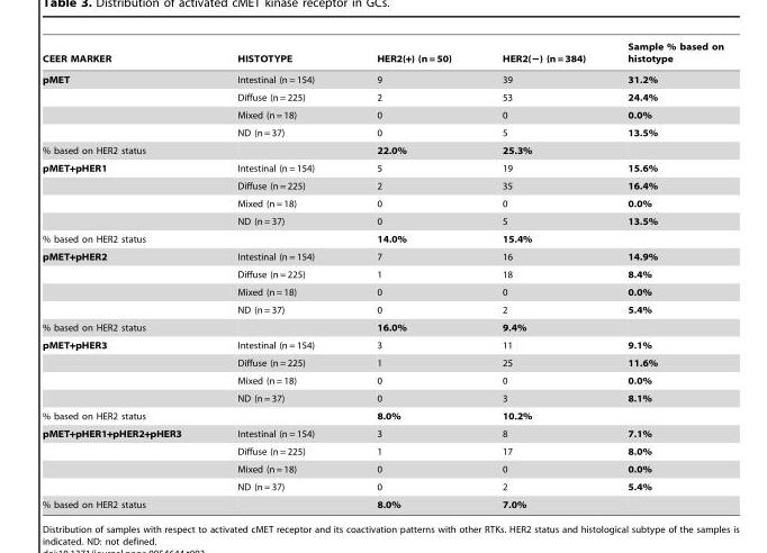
<table><thead><tr><td>CEER MARKER</td><td>HISTOTYPE</td><td>HER2(+) (n = 50)</td><td>HER2(−) (n = 384)</td><td>Sample % based on histotype</td></tr></thead><tbody><tr><td rowspan="4">pMET</td><td>Intestinal (n = 154)</td><td>9</td><td>39</td><td>31.2%</td></tr><tr><td>Diffuse (n = 225)</td><td>2</td><td>53</td><td>24.4%</td></tr><tr><td>Mixed (n = 18)</td><td>0</td><td>0</td><td>0.0%</td></tr><tr><td>ND (n = 37)</td><td>0</td><td>5</td><td>13.5%</td></tr><tr><td>% based on HER2 status</td><td></td><td>22.0%</td><td>25.3%</td><td></td></tr><tr><td rowspan="4">pMET+pHER1</td><td>Intestinal (n = 154)</td><td>5</td><td>19</td><td>15.6%</td></tr><tr><td>Diffuse (n = 225)</td><td>2</td><td>35</td><td>16.4%</td></tr><tr><td>Mixed (n = 18)</td><td>0</td><td>0</td><td>0.0%</td></tr><tr><td>ND (n = 37)</td><td>0</td><td>5</td><td>13.5%</td></tr><tr><td>% based on HER2 status</td><td></td><td>14.0%</td><td>15.4%</td><td></td></tr><tr><td rowspan="4">pMET+pHER2</td><td>Intestinal (n = 154)</td><td>7</td><td>16</td><td>14.9%</td></tr><tr><td>Diffuse (n = 225)</td><td>1</td><td>18</td><td>8.4%</td></tr><tr><td>Mixed (n = 18)</td><td>0</td><td>0</td><td>0.0%</td></tr><tr><td>ND (n = 37)</td><td>0</td><td>2</td><td>5.4%</td></tr><tr><td>% based on HER2 status</td><td></td><td>16.0%</td><td>9.4%</td><td></td></tr><tr><td rowspan="4">pMET+pHER3</td><td>Intestinal (n = 154)</td><td>3</td><td>11</td><td>9.1%</td></tr><tr><td>Diffuse (n = 225)</td><td>1</td><td>25</td><td>11.6%</td></tr><tr><td>Mixed (n = 18)</td><td>0</td><td>0</td><td>0.0%</td></tr><tr><td>ND (n = 37)</td><td>0</td><td>3</td><td>8.1%</td></tr><tr><td>% based on HER2 status</td><td></td><td>8.0%</td><td>10.2%</td><td></td></tr><tr><td rowspan="4">pMET+pHER1+pHER2+pHER3</td><td>Intestinal (n = 154)</td><td>3</td><td>8</td><td>7.1%</td></tr><tr><td>Diffuse (n = 225)</td><td>1</td><td>17</td><td>8.0%</td></tr><tr><td>Mixed (n = 18)</td><td>0</td><td>0</td><td>0.0%</td></tr><tr><td>ND (n = 37)</td><td>0</td><td>2</td><td>5.4%</td></tr><tr><td>% based on HER2 status</td><td></td><td>8.0%</td><td>7.0%</td><td></td></tr></tbody></table>